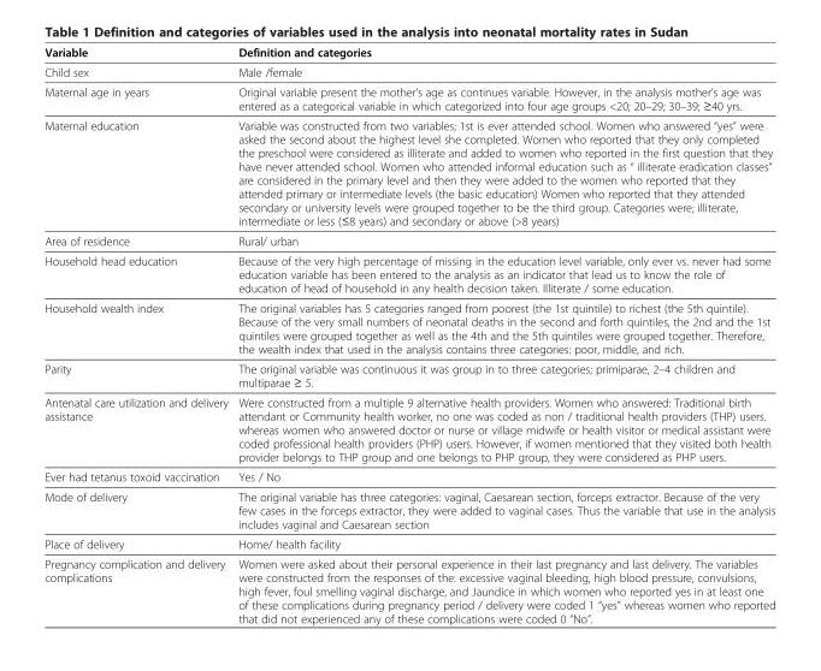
<table><thead><tr><td>Variable</td><td>Definition and categories</td></tr></thead><tbody><tr><td>Child sex</td><td>Male /female</td></tr><tr><td>Maternal age in years</td><td>Original variable present the mother’s age as continues variable. However, in the analysis mother’s age was entered as a categorical variable in which categorized into four age groups &lt;20; 20–29; 30–39; ≥40 yrs.</td></tr><tr><td>Maternal education</td><td>Variable was constructed from two variables; 1st is ever attended school. Women who answered “yes” were asked the second about the highest level she completed. Women who reported that they only completed the preschool were considered as illiterate and added to women who reported in the first question that they have never attended school. Women who attended informal education such as “ illiterate eradication classes” are considered in the primary level and then they were added to the women who reported that they attended primary or intermediate levels (the basic education) Women who reported that they attended secondary or university levels were grouped together to be the third group. Categories were; illiterate, intermediate or less (≤8 years) and secondary or above (&gt;8 years)</td></tr><tr><td>Area of residence</td><td>Rural/ urban</td></tr><tr><td>Household head education</td><td>Because of the very high percentage of missing in the education level variable, only ever vs. never had some education variable has been entered to the analysis as an indicator that lead us to know the role of education of head of household in any health decision taken. Illiterate / some education.</td></tr><tr><td>Household wealth index</td><td>The original variables has 5 categories ranged from poorest (the 1st quintile) to richest (the 5th quintile). Because of the very small numbers of neonatal deaths in the second and forth quintiles, the 2nd and the 1st quintiles were grouped together as well as the 4th and the 5th quintiles were grouped together. Therefore, the wealth index that used in the analysis contains three categories: poor, middle, and rich.</td></tr><tr><td>Parity</td><td>The original variable was continuous it was group in to three categories; primiparae, 2–4 children and multiparae ≥ 5.</td></tr><tr><td>Antenatal care utilization and delivery assistance</td><td>Were constructed from a multiple 9 alternative health providers. Women who answered: Traditional birth attendant or Community health worker, no one was coded as non / traditional health providers (THP) users. whereas women who answered doctor or nurse or village midwife or health visitor or medical assistant were coded professional health providers (PHP) users. However, if women mentioned that they visited both health provider belongs to THP group and one belongs to PHP group, they were considered as PHP users.</td></tr><tr><td>Ever had tetanus toxoid vaccination</td><td>Yes / No</td></tr><tr><td>Mode of delivery</td><td>The original variable has three categories: vaginal, Caesarean section, forceps extractor. Because of the very few cases in the forceps extractor, they were added to vaginal cases. Thus the variable that use in the analysis includes vaginal and Caesarean section</td></tr><tr><td>Place of delivery</td><td>Home/ health facility</td></tr><tr><td>Pregnancy complication and delivery complications</td><td>Women were asked about their personal experience in their last pregnancy and last delivery. The variables were constructed from the responses of the: excessive vaginal bleeding, high blood pressure, convulsions, high fever, foul smelling vaginal discharge, and Jaundice in which women who reported yes in at least one of these complications during pregnancy period / delivery were coded 1 “yes” whereas women who reported that did not experienced any of these complications were coded 0 “No”.</td></tr></tbody></table>